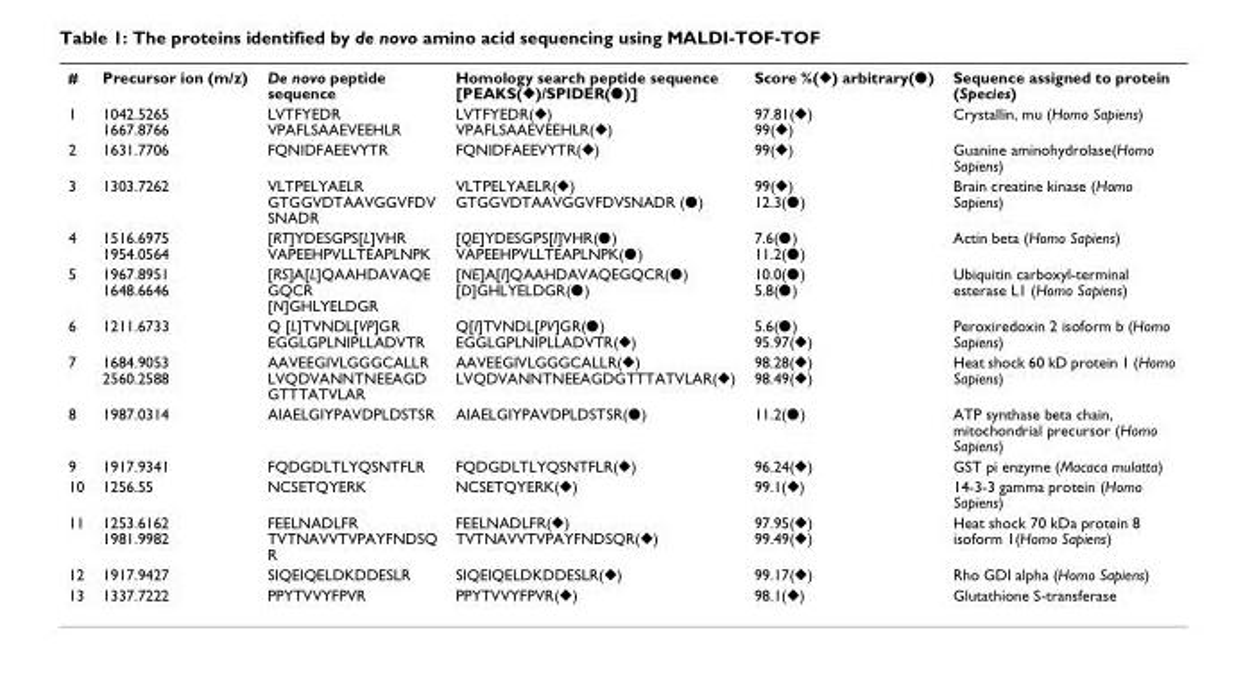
<table><tbody><tr><td>#</td><td>Precursor ion (m/z)</td><td>De novo peptide sequence</td><td>Homology search peptide sequence [PEAKS(◆)/SPIDER(●)]</td><td>Score %(◆) arbitrary(●)</td><td>Sequence assigned to protein (Species)</td></tr><tr><td>1</td><td>1042.5265 1667.8766</td><td>LVTFYEDR VPAFLSAAEVEEHLR</td><td>LVTFYEDR(◆) VPAFLSAAEVEEHLR(◆)</td><td>97.81(◆) 99(◆)</td><td>Crystallin, mu (Homo Sapiens)</td></tr><tr><td>2</td><td>1631.7706</td><td>FQNIDFAEEVYTR</td><td>FQNIDFAEEVYTR(◆)</td><td>99(◆)</td><td>Guanine aminohydrolase(Homo Sapiens)</td></tr><tr><td>3</td><td>1303.7262</td><td>VLTPELYAELR GTGGVDTAAVGGVFDV SNADR</td><td>VLTPELYAELR(◆) GTGGVDTAAVGGVFDVSNADR (●)</td><td>99(◆) 12.3(●)</td><td>Brain creatine kinase (Homo Sapiens)</td></tr><tr><td>4</td><td>1516.6975 1954.0564</td><td>[RT]YDESGPS[L]VHR VAPEEHPVLLTEAPLNPK</td><td>[QE]YDESGPS[I]VHR(●) VAPEEHPVLLTEAPLNPK(●)</td><td>7.6(●) 11.2(●)</td><td>Actin beta (Homo Sapiens)</td></tr><tr><td>5</td><td>1967.8951 1648.6646</td><td>[RS]A[L]QAAHDAVAQE GQCR [N]GHLYELDGR</td><td>[NE]A[I]QAAHDAVAQEGQCR(●) [D]GHLYELDGR(●)</td><td>10.0(●) 5.8(●)</td><td>Ubiquitin carboxyl-terminal esterase L1 (Homo Sapiens)</td></tr><tr><td>6</td><td>1211.6733</td><td>Q [L]TVNDL[VP]GR EGGLGPLNIPLLADVTR</td><td>Q[I]TVNDL[PV]GR(●) EGGLGPLNIPLLADVTR(◆)</td><td>5.6(●) 95.97(◆)</td><td>Peroxiredoxin 2 isoform b (Homo Sapiens)</td></tr><tr><td>7</td><td>1684.9053 2560.2588</td><td>AAVEEGIVLGGGCALLR LVQDVANNTNEEAGD GTTTATVLAR</td><td>AAVEEGIVLGGGCALLR(◆) LVQDVANNTNEEAGDGTTTATVLAR(◆)</td><td>98.28(◆) 98.49(◆)</td><td>Heat shock 60 kD protein 1 (Homo Sapiens)</td></tr><tr><td>8</td><td>1987.0314</td><td>AIAELGIYPAVDPLDSTSR</td><td>AIAELGIYPAVDPLDSTSR(●)</td><td>11.2(●)</td><td>ATP synthase beta chain, mitochondrial precursor (Homo Sapiens)</td></tr><tr><td>9</td><td>1917.9341</td><td>FQDGDLTLYQSNTFLR</td><td>FQDGDLTLYQSNTFLR(◆)</td><td>96.24(◆)</td><td>GST pi enzyme (Macaca mulatta)</td></tr><tr><td>10</td><td>1256.55</td><td>NCSETQYERK</td><td>NCSETQYERK(◆)</td><td>99.1(◆)</td><td>14-3-3 gamma protein (Homo Sapiens)</td></tr><tr><td>11</td><td>1253.6162 1981.9982</td><td>FEELNADLFR TVTNAVVTVPAYFNDSQ R</td><td>FEELNADLFR(◆) TVTNAVVTVPAYFNDSQR(◆)</td><td>97.95(◆) 99.49(◆)</td><td>Heat shock 70 kDa protein 8 isoform 1(Homo Sapiens)</td></tr><tr><td>12</td><td>1917.9427</td><td>SIQEIQELDKDDESLR</td><td>SIQEIQELDKDDESLR(◆)</td><td>99.17(◆)</td><td>Rho GDI alpha (Homo Sapiens)</td></tr><tr><td>13</td><td>1337.7222</td><td>PPYTVVYFPVR</td><td>PPYTVVYFPVR(◆)</td><td>98.1(◆)</td><td>Glutathione S-transferase</td></tr></tbody></table>